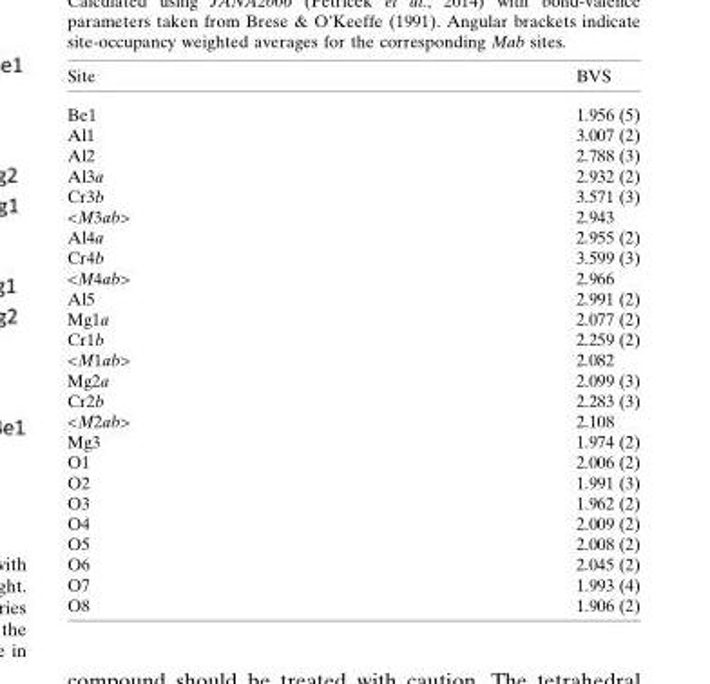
<table><thead><tr><td>Site</td><td>BVS</td></tr></thead><tbody><tr><td>Be1</td><td>1.956 (5)</td></tr><tr><td>Al1</td><td>3.007 (2)</td></tr><tr><td>Al2</td><td>2.788 (3)</td></tr><tr><td>Al3a</td><td>2.932 (2)</td></tr><tr><td>Cr3b</td><td>3.571 (3)</td></tr><tr><td>&lt;M3ab&gt;</td><td>2.943</td></tr><tr><td>Al4a</td><td>2.955 (2)</td></tr><tr><td>Cr4b</td><td>3.599 (3)</td></tr><tr><td>&lt;M4ab&gt;</td><td>2.966</td></tr><tr><td>Al5</td><td>2.991 (2)</td></tr><tr><td>Mg1a</td><td>2.077 (2)</td></tr><tr><td>Cr1b</td><td>2.259 (2)</td></tr><tr><td>&lt;M1ab&gt;</td><td>2.082</td></tr><tr><td>Mg2a</td><td>2.099 (3)</td></tr><tr><td>Cr2b</td><td>2.283 (3)</td></tr><tr><td>&lt;M2ab&gt;</td><td>2.108</td></tr><tr><td>Mg3</td><td>1.974 (2)</td></tr><tr><td>O1</td><td>2.006 (2)</td></tr><tr><td>O2</td><td>1.991 (3)</td></tr><tr><td>O3</td><td>1.962 (2)</td></tr><tr><td>O4</td><td>2.009 (2)</td></tr><tr><td>O5</td><td>2.008 (2)</td></tr><tr><td>O6</td><td>2.045 (2)</td></tr><tr><td>O7</td><td>1.993 (4)</td></tr><tr><td>O8</td><td>1.906 (2)</td></tr></tbody></table>